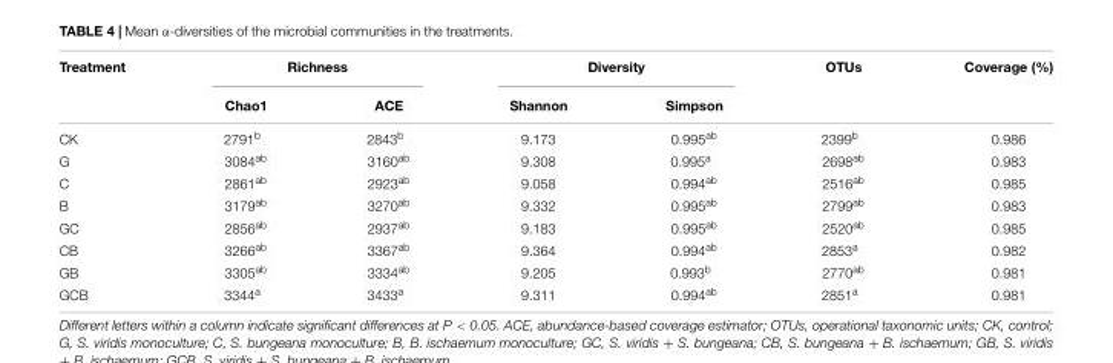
<table><thead><tr><td rowspan="2">Treatment</td><td colspan="2">Richness</td><td colspan="2">Diversity</td><td rowspan="2">OTUs</td><td rowspan="2">Coverage (%)</td></tr><tr><td>Chao1</td><td>ACE</td><td>Shannon</td><td>Simpson</td></tr></thead><tbody><tr><td>CK</td><td>2791<sup>b</sup></td><td>2843<sup>b</sup></td><td>9.173</td><td>0.995<sup>ab</sup></td><td>2399<sup>b</sup></td><td>0.986</td></tr><tr><td>G</td><td>3084<sup>ab</sup></td><td>3160<sup>ab</sup></td><td>9.308</td><td>0.995<sup>a</sup></td><td>2698<sup>ab</sup></td><td>0.983</td></tr><tr><td>C</td><td>2861<sup>ab</sup></td><td>2923<sup>ab</sup></td><td>9.058</td><td>0.994<sup>ab</sup></td><td>2516<sup>ab</sup></td><td>0.985</td></tr><tr><td>B</td><td>3179<sup>ab</sup></td><td>3270<sup>ab</sup></td><td>9.332</td><td>0.995<sup>ab</sup></td><td>2799<sup>ab</sup></td><td>0.983</td></tr><tr><td>GC</td><td>2856<sup>ab</sup></td><td>2937<sup>ab</sup></td><td>9.183</td><td>0.995<sup>ab</sup></td><td>2520<sup>ab</sup></td><td>0.985</td></tr><tr><td>CB</td><td>3266<sup>ab</sup></td><td>3367<sup>ab</sup></td><td>9.364</td><td>0.994<sup>ab</sup></td><td>2853<sup>a</sup></td><td>0.982</td></tr><tr><td>GB</td><td>3305<sup>ab</sup></td><td>3334<sup>ab</sup></td><td>9.205</td><td>0.993<sup>b</sup></td><td>2770<sup>ab</sup></td><td>0.981</td></tr><tr><td>GCB</td><td>3344<sup>a</sup></td><td>3433<sup>a</sup></td><td>9.311</td><td>0.994<sup>ab</sup></td><td>2851<sup>a</sup></td><td>0.981</td></tr></tbody></table>